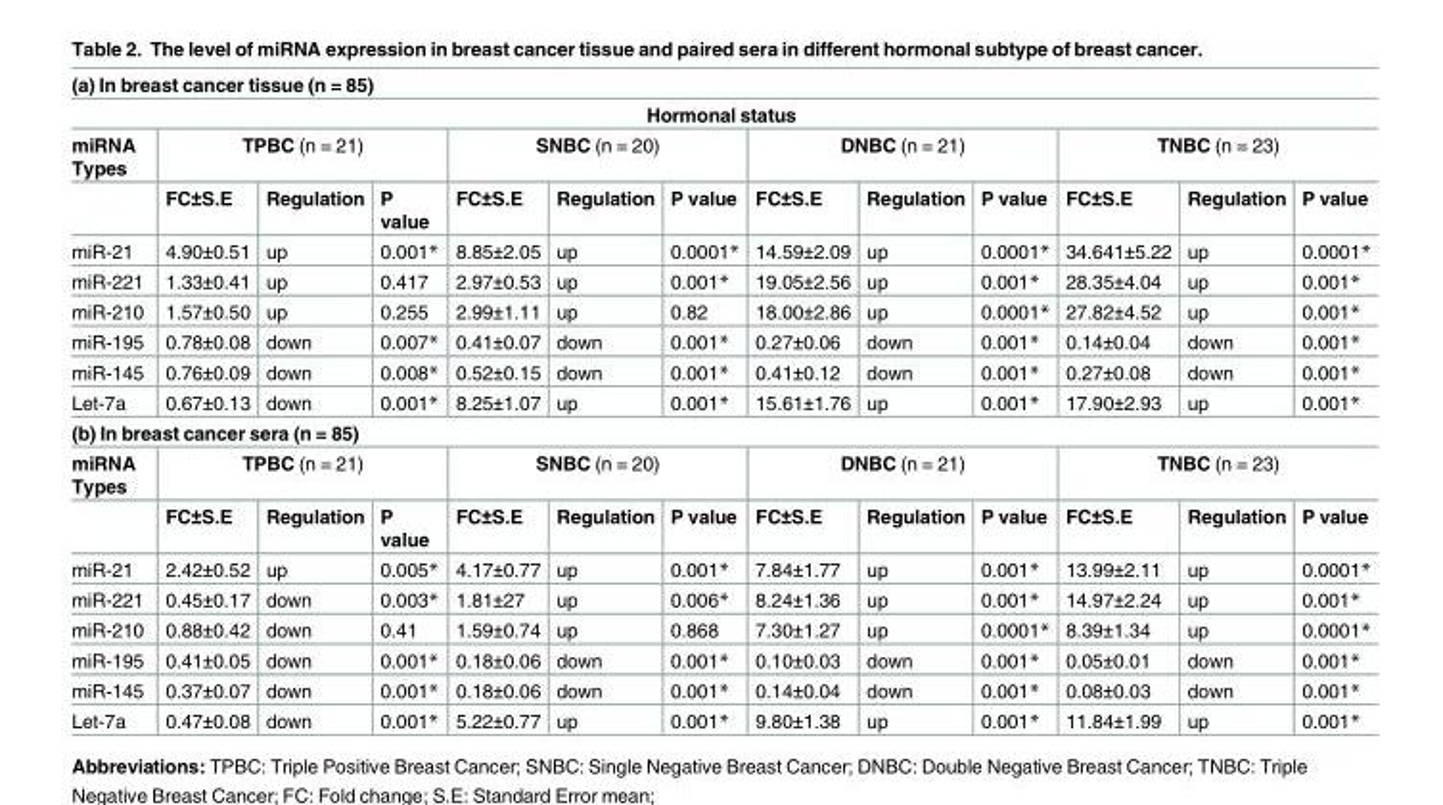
<table><tbody><tr><td colspan="13">(a) In breast cancer tissue (n = 85)</td></tr><tr><td colspan="13">Hormonal status</td></tr><tr><td rowspan="2">miRNA Types</td><td colspan="3">TPBC (n = 21)</td><td colspan="3">SNBC (n = 20)</td><td colspan="3">DNBC (n = 21)</td><td colspan="3">TNBC (n = 23)</td></tr><tr><td>FC±S.E</td><td>Regulation</td><td>P value</td><td>FC±S.E</td><td>Regulation</td><td>P value</td><td>FC±S.E</td><td>Regulation</td><td>P value</td><td>FC±S.E</td><td>Regulation</td><td>P value</td></tr><tr><td>miR-21</td><td>4.90±0.51</td><td>up</td><td>0.001*</td><td>8.85±2.05</td><td>up</td><td>0.0001*</td><td>14.59±2.09</td><td>up</td><td>0.0001*</td><td>34.641±5.22</td><td>up</td><td>0.0001*</td></tr><tr><td>miR-221</td><td>1.33±0.41</td><td>up</td><td>0.417</td><td>2.97±0.53</td><td>up</td><td>0.001*</td><td>19.05±2.56</td><td>up</td><td>0.001*</td><td>28.35±4.04</td><td>up</td><td>0.001*</td></tr><tr><td>miR-210</td><td>1.57±0.50</td><td>up</td><td>0.255</td><td>2.99±1.11</td><td>up</td><td>0.82</td><td>18.00±2.86</td><td>up</td><td>0.0001*</td><td>27.82±4.52</td><td>up</td><td>0.001*</td></tr><tr><td>miR-195</td><td>0.78±0.08</td><td>down</td><td>0.007*</td><td>0.41±0.07</td><td>down</td><td>0.001*</td><td>0.27±0.06</td><td>down</td><td>0.001*</td><td>0.14±0.04</td><td>down</td><td>0.001*</td></tr><tr><td>miR-145</td><td>0.76±0.09</td><td>down</td><td>0.008*</td><td>0.52±0.15</td><td>down</td><td>0.001*</td><td>0.41±0.12</td><td>down</td><td>0.001*</td><td>0.27±0.08</td><td>down</td><td>0.001*</td></tr><tr><td>Let-7a</td><td>0.67±0.13</td><td>down</td><td>0.001*</td><td>8.25±1.07</td><td>up</td><td>0.001*</td><td>15.61±1.76</td><td>up</td><td>0.001*</td><td>17.90±2.93</td><td>up</td><td>0.001*</td></tr><tr><td colspan="13">(b) In breast cancer sera (n = 85)</td></tr><tr><td rowspan="2">miRNA Types</td><td colspan="3">TPBC (n = 21)</td><td colspan="3">SNBC (n = 20)</td><td colspan="3">DNBC (n = 21)</td><td colspan="3">TNBC (n = 23)</td></tr><tr><td>FC±S.E</td><td>Regulation</td><td>P value</td><td>FC±S.E</td><td>Regulation</td><td>P value</td><td>FC±S.E</td><td>Regulation</td><td>P value</td><td>FC±S.E</td><td>Regulation</td><td>P value</td></tr><tr><td>miR-21</td><td>2.42±0.52</td><td>up</td><td>0.005*</td><td>4.17±0.77</td><td>up</td><td>0.001*</td><td>7.84±1.77</td><td>up</td><td>0.001*</td><td>13.99±2.11</td><td>up</td><td>0.0001*</td></tr><tr><td>miR-221</td><td>0.45±0.17</td><td>down</td><td>0.003*</td><td>1.81±27</td><td>up</td><td>0.006*</td><td>8.24±1.36</td><td>up</td><td>0.001*</td><td>14.97±2.24</td><td>up</td><td>0.001*</td></tr><tr><td>miR-210</td><td>0.88±0.42</td><td>down</td><td>0.41</td><td>1.59±0.74</td><td>up</td><td>0.868</td><td>7.30±1.27</td><td>up</td><td>0.0001*</td><td>8.39±1.34</td><td>up</td><td>0.0001*</td></tr><tr><td>miR-195</td><td>0.41±0.05</td><td>down</td><td>0.001*</td><td>0.18±0.06</td><td>down</td><td>0.001*</td><td>0.10±0.03</td><td>down</td><td>0.001*</td><td>0.05±0.01</td><td>down</td><td>0.001*</td></tr><tr><td>miR-145</td><td>0.37±0.07</td><td>down</td><td>0.001*</td><td>0.18±0.06</td><td>down</td><td>0.001*</td><td>0.14±0.04</td><td>down</td><td>0.001*</td><td>0.08±0.03</td><td>down</td><td>0.001*</td></tr><tr><td>Let-7a</td><td>0.47±0.08</td><td>down</td><td>0.001*</td><td>5.22±0.77</td><td>up</td><td>0.001*</td><td>9.80±1.38</td><td>up</td><td>0.001*</td><td>11.84±1.99</td><td>up</td><td>0.001*</td></tr></tbody></table>